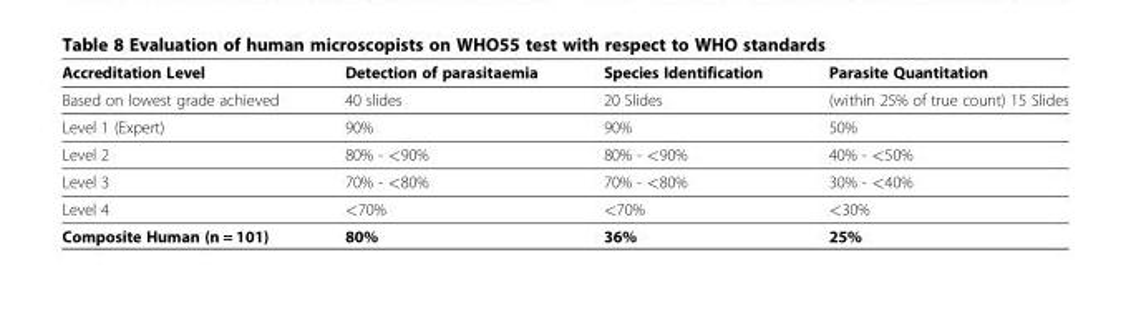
<table><thead><tr><td>Accreditation Level</td><td>Detection of parasitaemia</td><td>Species Identification</td><td>Parasite Quantitation</td></tr></thead><tbody><tr><td>Based on lowest grade achieved</td><td>40 slides</td><td>20 Slides</td><td>(within 25% of true count) 15 Slides</td></tr><tr><td>Level 1 (Expert)</td><td>90%</td><td>90%</td><td>50%</td></tr><tr><td>Level 2</td><td>80% - &lt;90%</td><td>80% - &lt;90%</td><td>40% - &lt;50%</td></tr><tr><td>Level 3</td><td>70% - &lt;80%</td><td>70% - &lt;80%</td><td>30% - &lt;40%</td></tr><tr><td>Level 4</td><td>&lt;70%</td><td>&lt;70%</td><td>&lt;30%</td></tr><tr><td>Composite Human (n = 101)</td><td>80%</td><td>36%</td><td>25%</td></tr></tbody></table>